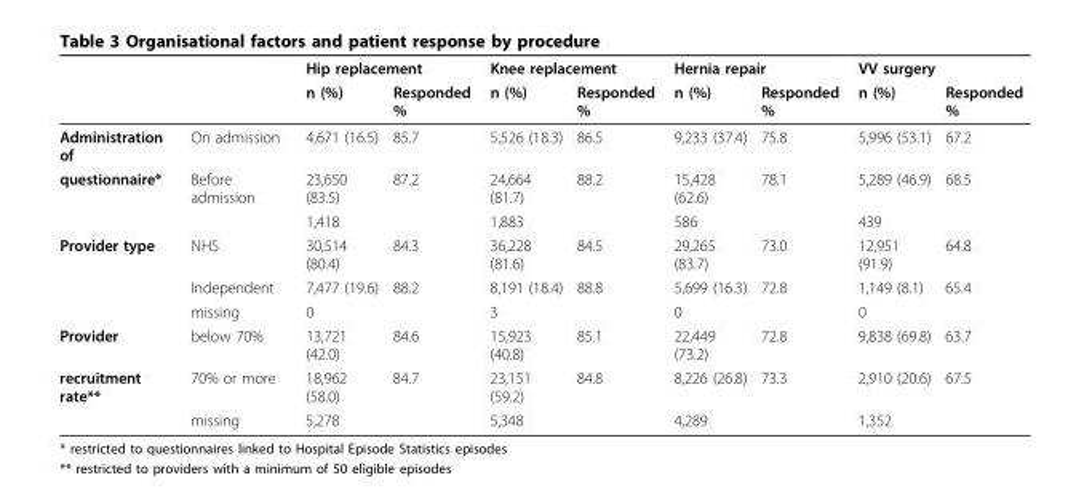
<table><thead><tr><td rowspan="2"></td><td rowspan="2"></td><td colspan="2">Hip replacement</td><td colspan="2">Knee replacement</td><td colspan="2">Hernia repair</td><td colspan="2">VV surgery</td></tr><tr><td>n (%)</td><td>Responded %</td><td>n (%)</td><td>Responded %</td><td>n (%)</td><td>Responded %</td><td>n (%)</td><td>Responded %</td></tr></thead><tbody><tr><td>Administration of</td><td>On admission</td><td>4,671 (16.5)</td><td>85.7</td><td>5,526 (18.3)</td><td>86.5</td><td>9,233 (37.4)</td><td>75.8</td><td>5,996 (53.1)</td><td>67.2</td></tr><tr><td rowspan="2">questionnaire*</td><td>Before admission</td><td>23,650 (83.5)</td><td>87.2</td><td>24,664 (81.7)</td><td>88.2</td><td>15,428 (62.6)</td><td>78.1</td><td>5,289 (46.9)</td><td>68.5</td></tr><tr><td></td><td>1,418</td><td></td><td>1,883</td><td></td><td>586</td><td></td><td>439</td><td></td></tr><tr><td rowspan="3">Provider type</td><td>NHS</td><td>30,514 (80.4)</td><td>84.3</td><td>36,228 (81.6)</td><td>84.5</td><td>29,265 (83.7)</td><td>73.0</td><td>12,951 (91.9)</td><td>64.8</td></tr><tr><td>Independent</td><td>7,477 (19.6)</td><td>88.2</td><td>8,191 (18.4)</td><td>88.8</td><td>5,699 (16.3)</td><td>72.8</td><td>1,149 (8.1)</td><td>65.4</td></tr><tr><td>missing</td><td>0</td><td></td><td>3</td><td></td><td>0</td><td></td><td>0</td><td></td></tr><tr><td>Provider</td><td>below 70%</td><td>13,721 (42.0)</td><td>84.6</td><td>15,923 (40.8)</td><td>85.1</td><td>22,449 (73.2)</td><td>72.8</td><td>9,838 (69.8)</td><td>63.7</td></tr><tr><td rowspan="2">recruitment rate**</td><td>70% or more</td><td>18,962 (58.0)</td><td>84.7</td><td>23,151 (59.2)</td><td>84.8</td><td>8,226 (26.8)</td><td>73.3</td><td>2,910 (20.6)</td><td>67.5</td></tr><tr><td>missing</td><td>5,278</td><td></td><td>5,348</td><td></td><td>4,289</td><td></td><td>1,352</td><td></td></tr></tbody></table>